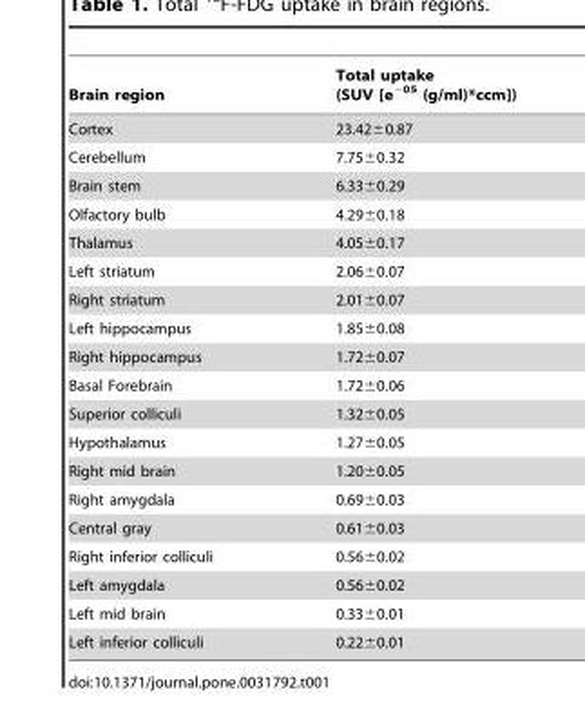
<table><thead><tr><td>Brain region</td><td>Total uptake (SUV [e<sup>−05</sup> (g/ml)*ccm])</td></tr></thead><tbody><tr><td>Cortex</td><td>23.42±0.87</td></tr><tr><td>Cerebellum</td><td>7.75±0.32</td></tr><tr><td>Brain stem</td><td>6.33±0.29</td></tr><tr><td>Olfactory bulb</td><td>4.29±0.18</td></tr><tr><td>Thalamus</td><td>4.05±0.17</td></tr><tr><td>Left striatum</td><td>2.06±0.07</td></tr><tr><td>Right striatum</td><td>2.01±0.07</td></tr><tr><td>Left hippocampus</td><td>1.85±0.08</td></tr><tr><td>Right hippocampus</td><td>1.72±0.07</td></tr><tr><td>Basal Forebrain</td><td>1.72±0.06</td></tr><tr><td>Superior colliculi</td><td>1.32±0.05</td></tr><tr><td>Hypothalamus</td><td>1.27±0.05</td></tr><tr><td>Right mid brain</td><td>1.20±0.05</td></tr><tr><td>Right amygdala</td><td>0.69±0.03</td></tr><tr><td>Central gray</td><td>0.61±0.03</td></tr><tr><td>Right inferior colliculi</td><td>0.56±0.02</td></tr><tr><td>Left amygdala</td><td>0.56±0.02</td></tr><tr><td>Left mid brain</td><td>0.33±0.01</td></tr><tr><td>Left inferior colliculi</td><td>0.22±0.01</td></tr></tbody></table>